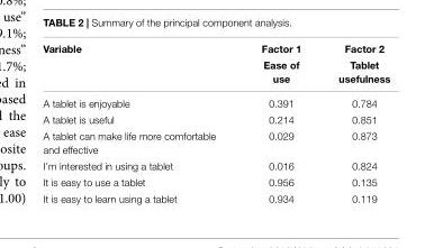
<table><thead><tr><td>Variable</td><td>Factor 1 Ease of use</td><td>Factor 2 Tablet usefulness</td></tr></thead><tbody><tr><td>A tablet is enjoyable</td><td>0.391</td><td>0.784</td></tr><tr><td>A tablet is useful</td><td>0.214</td><td>0.851</td></tr><tr><td>A tablet can make life more comfortable and effective</td><td>0.029</td><td>0.873</td></tr><tr><td>I’m interested in using a tablet</td><td>0.016</td><td>0.824</td></tr><tr><td>It is easy to use a tablet</td><td>0.956</td><td>0.135</td></tr><tr><td>It is easy to learn using a tablet</td><td>0.934</td><td>0.119</td></tr></tbody></table>